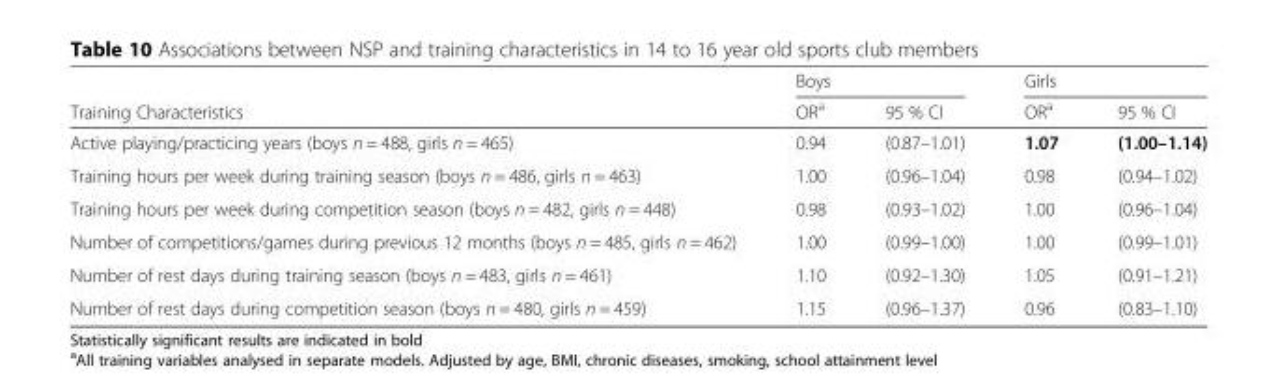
<table><thead><tr><td rowspan="2">Training Characteristics</td><td colspan="2">Boys</td><td colspan="2">Girls</td></tr><tr><td>OR<sup>a</sup></td><td>95 % CI</td><td>OR<sup>a</sup></td><td>95 % CI</td></tr></thead><tbody><tr><td>Active playing/practicing years (boys n = 488, girls n = 465)</td><td>0.94</td><td>(0.87–1.01)</td><td>1.07</td><td>(1.00–1.14)</td></tr><tr><td>Training hours per week during training season (boys n = 486, girls n = 463)</td><td>1.00</td><td>(0.96–1.04)</td><td>0.98</td><td>(0.94–1.02)</td></tr><tr><td>Training hours per week during competition season (boys n = 482, girls n = 448)</td><td>0.98</td><td>(0.93–1.02)</td><td>1.00</td><td>(0.96–1.04)</td></tr><tr><td>Number of competitions/games during previous 12 months (boys n = 485, girls n = 462)</td><td>1.00</td><td>(0.99–1.00)</td><td>1.00</td><td>(0.99–1.01)</td></tr><tr><td>Number of rest days during training season (boys n = 483, girls n = 461)</td><td>1.10</td><td>(0.92–1.30)</td><td>1.05</td><td>(0.91–1.21)</td></tr><tr><td>Number of rest days during competition season (boys n = 480, girls n = 459)</td><td>1.15</td><td>(0.96–1.37)</td><td>0.96</td><td>(0.83–1.10)</td></tr></tbody></table>